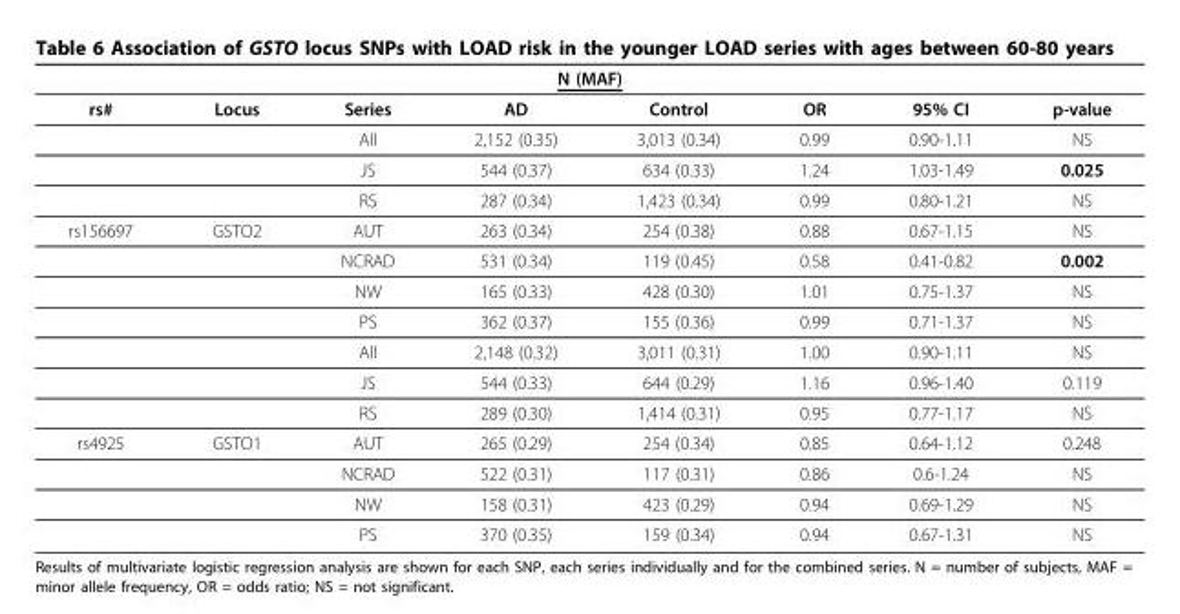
<table><thead><tr><td colspan="8">N (MAF)</td></tr><tr><td>rs#</td><td>Locus</td><td>Series</td><td>AD</td><td>Control</td><td>OR</td><td>95% CI</td><td>p-value</td></tr></thead><tbody><tr><td></td><td></td><td>All</td><td>2,152 (0.35)</td><td>3,013 (0.34)</td><td>0.99</td><td>0.90-1.11</td><td>NS</td></tr><tr><td></td><td></td><td>JS</td><td>544 (0.37)</td><td>634 (0.33)</td><td>1.24</td><td>1.03-1.49</td><td>0.025</td></tr><tr><td></td><td></td><td>RS</td><td>287 (0.34)</td><td>1,423 (0.34)</td><td>0.99</td><td>0.80-1.21</td><td>NS</td></tr><tr><td rowspan="7">rs156697</td><td>GSTO2</td><td>AUT</td><td>263 (0.34)</td><td>254 (0.38)</td><td>0.88</td><td>0.67-1.15</td><td>NS</td></tr><tr><td></td><td>NCRAD</td><td>531 (0.34)</td><td>119 (0.45)</td><td>0.58</td><td>0.41-0.82</td><td>0.002</td></tr><tr><td></td><td>NW</td><td>165 (0.33)</td><td>428 (0.30)</td><td>1.01</td><td>0.75-1.37</td><td>NS</td></tr><tr><td></td><td>PS</td><td>362 (0.37)</td><td>155 (0.36)</td><td>0.99</td><td>0.71-1.37</td><td>NS</td></tr><tr><td></td><td>All</td><td>2,148 (0.32)</td><td>3,011 (0.31)</td><td>1.00</td><td>0.90-1.11</td><td>NS</td></tr><tr><td></td><td>JS</td><td>544 (0.33)</td><td>644 (0.29)</td><td>1.16</td><td>0.96-1.40</td><td>0.119</td></tr><tr><td></td><td>RS</td><td>289 (0.30)</td><td>1,414 (0.31)</td><td>0.95</td><td>0.77-1.17</td><td>NS</td></tr><tr><td rowspan="4">rs4925</td><td>GSTO1</td><td>AUT</td><td>265 (0.29)</td><td>254 (0.34)</td><td>0.85</td><td>0.64-1.12</td><td>0.248</td></tr><tr><td></td><td>NCRAD</td><td>522 (0.31)</td><td>117 (0.31)</td><td>0.86</td><td>0.6-1.24</td><td>NS</td></tr><tr><td></td><td>NW</td><td>158 (0.31)</td><td>423 (0.29)</td><td>0.94</td><td>0.69-1.29</td><td>NS</td></tr><tr><td></td><td>PS</td><td>370 (0.35)</td><td>159 (0.34)</td><td>0.94</td><td>0.67-1.31</td><td>NS</td></tr></tbody></table>